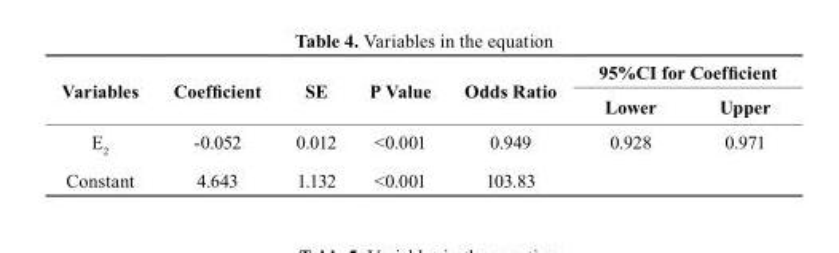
<table><thead><tr><td rowspan="2">Variables</td><td rowspan="2">Coefficient</td><td rowspan="2">sE</td><td rowspan="2">P Value</td><td rowspan="2">Odds ratio</td><td colspan="2">95%CI for Coefficient</td></tr><tr><td>Lower</td><td>Upper</td></tr></thead><tbody><tr><td>E<sub>2</sub></td><td>-0.052</td><td>0.012</td><td>&lt;0.001</td><td>0.949</td><td>0.928</td><td>0.971</td></tr><tr><td>Constant</td><td>4.643</td><td>1.132</td><td>&lt;0.001</td><td>103.83</td><td></td><td></td></tr></tbody></table>